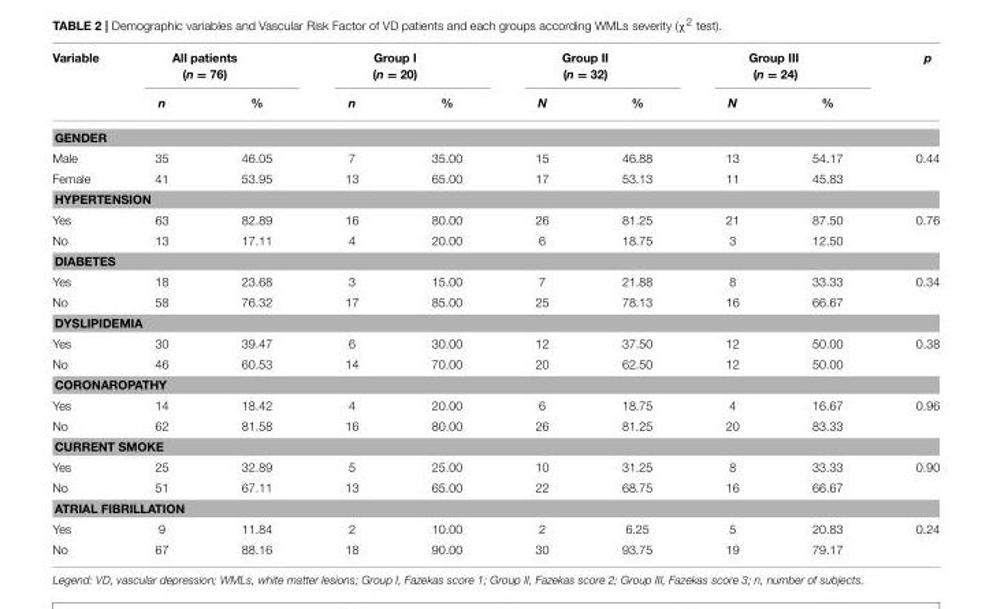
<table><thead><tr><td rowspan="2">Variable</td><td colspan="2">All patients (n = 76)</td><td colspan="2">Group I (n = 20)</td><td colspan="2">Group II (n = 32)</td><td colspan="2">Group III (n = 24)</td><td rowspan="2">p</td></tr><tr><td>n</td><td>%</td><td>n</td><td>%</td><td>N</td><td>%</td><td>N</td><td>%</td></tr></thead><tbody><tr><td colspan="10">GENDER</td></tr><tr><td>Male</td><td>35</td><td>46.05</td><td>7</td><td>35.00</td><td>15</td><td>46.88</td><td>13</td><td>54.17</td><td>0.44</td></tr><tr><td>Female</td><td>41</td><td>53.95</td><td>13</td><td>65.00</td><td>17</td><td>53.13</td><td>11</td><td>45.83</td><td></td></tr><tr><td colspan="10">HYPERTENSION</td></tr><tr><td>Yes</td><td>63</td><td>82.89</td><td>16</td><td>80.00</td><td>26</td><td>81.25</td><td>21</td><td>87.50</td><td>0.76</td></tr><tr><td>No</td><td>13</td><td>17.11</td><td>4</td><td>20.00</td><td>6</td><td>18.75</td><td>3</td><td>12.50</td><td></td></tr><tr><td colspan="10">DIABETES</td></tr><tr><td>Yes</td><td>18</td><td>23.68</td><td>3</td><td>15.00</td><td>7</td><td>21.88</td><td>8</td><td>33.33</td><td>0.34</td></tr><tr><td>No</td><td>58</td><td>76.32</td><td>17</td><td>85.00</td><td>25</td><td>78.13</td><td>16</td><td>66.67</td><td></td></tr><tr><td colspan="10">DYSLIPIDEMIA</td></tr><tr><td>Yes</td><td>30</td><td>39.47</td><td>6</td><td>30.00</td><td>12</td><td>37.50</td><td>12</td><td>50.00</td><td>0.38</td></tr><tr><td>No</td><td>46</td><td>60.53</td><td>14</td><td>70.00</td><td>20</td><td>62.50</td><td>12</td><td>50.00</td><td></td></tr><tr><td colspan="10">CORONAROPATHY</td></tr><tr><td>Yes</td><td>14</td><td>18.42</td><td>4</td><td>20.00</td><td>6</td><td>18.75</td><td>4</td><td>16.67</td><td>0.96</td></tr><tr><td>No</td><td>62</td><td>81.58</td><td>16</td><td>80.00</td><td>26</td><td>81.25</td><td>20</td><td>83.33</td><td></td></tr><tr><td colspan="10">CURRENT SMOKE</td></tr><tr><td>Yes</td><td>25</td><td>32.89</td><td>5</td><td>25.00</td><td>10</td><td>31.25</td><td>8</td><td>33.33</td><td>0.90</td></tr><tr><td>No</td><td>51</td><td>67.11</td><td>13</td><td>65.00</td><td>22</td><td>68.75</td><td>16</td><td>66.67</td><td></td></tr><tr><td colspan="10">ATRIAL FIBRILLATION</td></tr><tr><td>Yes</td><td>9</td><td>11.84</td><td>2</td><td>10.00</td><td>2</td><td>6.25</td><td>5</td><td>20.83</td><td>0.24</td></tr><tr><td>No</td><td>67</td><td>88.16</td><td>18</td><td>90.00</td><td>30</td><td>93.75</td><td>19</td><td>79.17</td><td></td></tr></tbody></table>